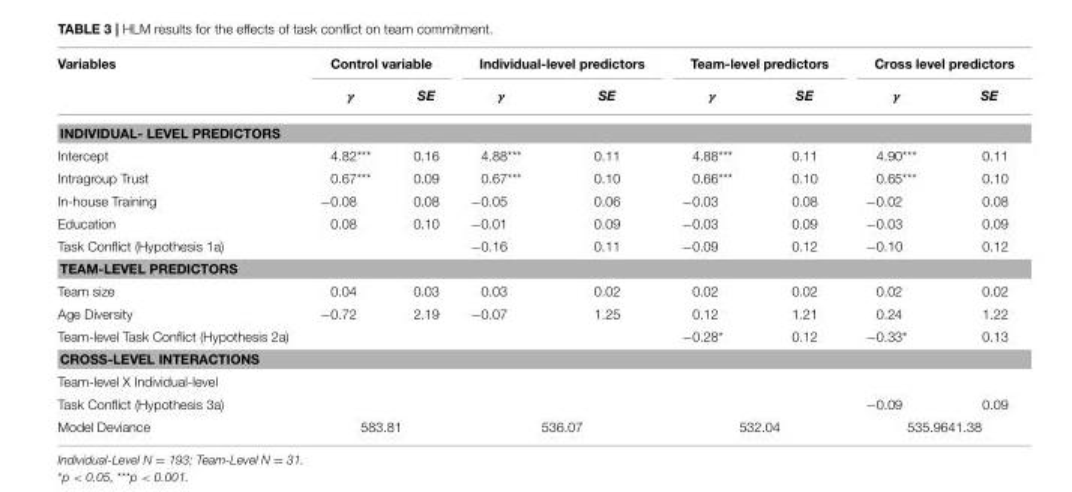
<table><thead><tr><td rowspan="2">Variables</td><td colspan="2">Control variable</td><td colspan="2">Individual-level predictors</td><td colspan="2">Team-level predictors</td><td colspan="2">Cross level predictors</td></tr><tr><td>γ</td><td>SE</td><td>γ</td><td>SE</td><td>γ</td><td>SE</td><td>γ</td><td>SE</td></tr></thead><tbody><tr><td colspan="9">INDIVIDUAL- LEVEL PREDICTORS</td></tr><tr><td>Intercept</td><td>4.82***</td><td>0.16</td><td>4.88***</td><td>0.11</td><td>4.88***</td><td>0.11</td><td>4.90***</td><td>0.11</td></tr><tr><td>Intragroup Trust</td><td>0.67***</td><td>0.09</td><td>0.67***</td><td>0.10</td><td>0.66***</td><td>0.10</td><td>0.65***</td><td>0.10</td></tr><tr><td>In-house Training</td><td>−0.08</td><td>0.08</td><td>−0.05</td><td>0.06</td><td>−0.03</td><td>0.08</td><td>−0.02</td><td>0.08</td></tr><tr><td>Education</td><td>0.08</td><td>0.10</td><td>−0.01</td><td>0.09</td><td>−0.03</td><td>0.09</td><td>−0.03</td><td>0.09</td></tr><tr><td>Task Conflict (Hypothesis 1a)</td><td></td><td></td><td>−0.16</td><td>0.11</td><td>−0.09</td><td>0.12</td><td>−0.10</td><td>0.12</td></tr><tr><td colspan="9">TEAM-LEVEL PREDICTORS</td></tr><tr><td>Team size</td><td>0.04</td><td>0.03</td><td>0.03</td><td>0.02</td><td>0.02</td><td>0.02</td><td>0.02</td><td>0.02</td></tr><tr><td>Age Diversity</td><td>−0.72</td><td>2.19</td><td>−0.07</td><td>1.25</td><td>0.12</td><td>1.21</td><td>0.24</td><td>1.22</td></tr><tr><td>Team-level Task Conflict (Hypothesis 2a)</td><td></td><td></td><td></td><td></td><td>−0.28*</td><td>0.12</td><td>−0.33*</td><td>0.13</td></tr><tr><td colspan="9">CROSS-LEVEL INTERACTIONS</td></tr><tr><td colspan="9">Team-level X Individual-level</td></tr><tr><td>Task Conflict (Hypothesis 3a)</td><td></td><td></td><td></td><td></td><td></td><td></td><td>−0.09</td><td>0.09</td></tr><tr><td>Model Deviance</td><td colspan="2">583.81</td><td colspan="2">536.07</td><td colspan="2">532.04</td><td colspan="2">535.9641.38</td></tr></tbody></table>